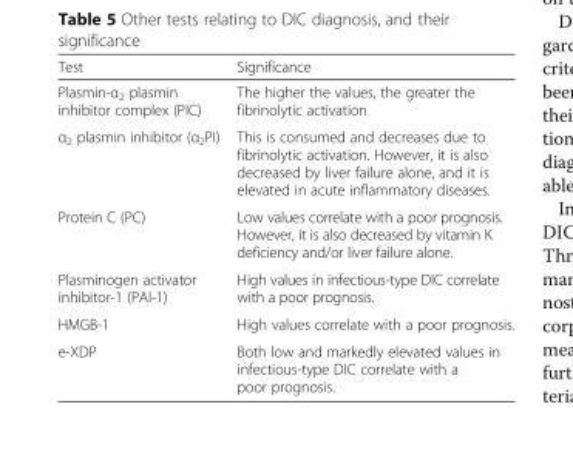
<table><thead><tr><td>Test</td><td>Significance</td></tr></thead><tbody><tr><td>Plasmin-α<sub>2</sub> plasmin inhibitor complex (PIC)</td><td>The higher the values, the greater the fibrinolytic activation</td></tr><tr><td>α<sub>2</sub> plasmin inhibitor (α<sub>2</sub>PI)</td><td>This is consumed and decreases due to fibrinolytic activation. However, it is also decreased by liver failure alone, and it is elevated in acute inflammatory diseases.</td></tr><tr><td>Protein C (PC)</td><td>Low values correlate with a poor prognosis. However, it is also decreased by vitamin K deficiency and/or liver failure alone.</td></tr><tr><td>Plasminogen activator inhibitor-1 (PAI-1)</td><td>High values in infectious-type DIC correlate with a poor prognosis.</td></tr><tr><td>HMGB-1</td><td>High values correlate with a poor prognosis.</td></tr><tr><td>e-XDP</td><td>Both low and markedly elevated values in infectious-type DIC correlate with a poor prognosis.</td></tr></tbody></table>